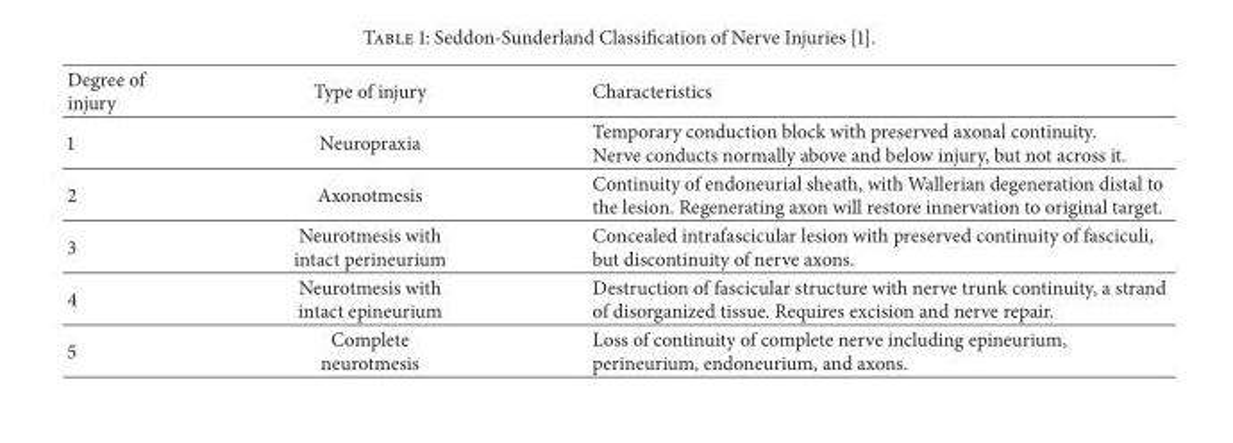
<table><thead><tr><td>Degree of injury</td><td>Type of injury</td><td>Characteristics</td></tr></thead><tbody><tr><td>1</td><td>Neuropraxia</td><td>Temporary conduction block with preserved axonal continuity. Nerve conducts normally above and below injury, but not across it.</td></tr><tr><td>2</td><td>Axonotmesis</td><td>Continuity of endoneurial sheath, with Wallerian degeneration distal to the lesion. Regenerating axon will restore innervation to original target.</td></tr><tr><td>3</td><td>Neurotmesis with intact perineurium</td><td>Concealed intrafascicular lesion with preserved continuity of fasciculi, but discontinuity of nerve axons.</td></tr><tr><td>4</td><td>Neurotmesis with intact epineurium</td><td>Destruction of fascicular structure with nerve trunk continuity, a strand of disorganized tissue. Requires excision and nerve repair.</td></tr><tr><td>5</td><td>Complete neurotmesis</td><td>Loss of continuity of complete nerve including epineurium, perineurium, endoneurium, and axons.</td></tr></tbody></table>